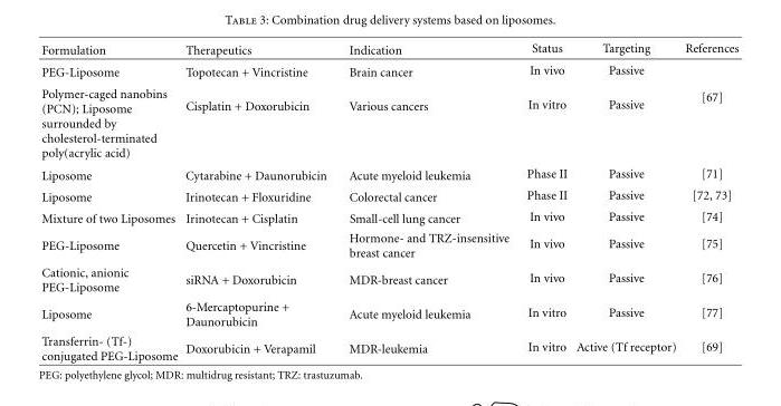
<table><thead><tr><td>Formulation</td><td>Therapeutics</td><td>Indication</td><td>Status</td><td>Targeting</td><td>References</td></tr></thead><tbody><tr><td>PEG-Liposome</td><td>Topotecan + Vincristine</td><td>Brain cancer</td><td>In vivo</td><td>Passive</td><td></td></tr><tr><td>Polymer-caged nanobins (PCN); Liposome surrounded by cholesterol-terminated poly(acrylic acid)</td><td>Cisplatin + Doxorubicin</td><td>Various cancers</td><td>In vitro</td><td>Passive</td><td>[67]</td></tr><tr><td>Liposome</td><td>Cytarabine + Daunorubicin</td><td>Acute myeloid leukemia</td><td>Phase II</td><td>Passive</td><td>[71]</td></tr><tr><td>Liposome</td><td>Irinotecan + Floxuridine</td><td>Colorectal cancer</td><td>Phase II</td><td>Passive</td><td>[72, 73]</td></tr><tr><td>Mixture of two Liposomes</td><td>Irinotecan + Cisplatin</td><td>Small-cell lung cancer</td><td>In vivo</td><td>Passive</td><td>[74]</td></tr><tr><td>PEG-Liposome</td><td>Quercetin + Vincristine</td><td>Hormone- and TRZ-insensitive breast cancer</td><td>In vivo</td><td>Passive</td><td>[75]</td></tr><tr><td>Cationic, anionic PEG-Liposome</td><td>siRNA + Doxorubicin</td><td>MDR-breast cancer</td><td>In vivo</td><td>Passive</td><td>[76]</td></tr><tr><td>Liposome</td><td>6-Mercaptopurine + Daunorubicin</td><td>Acute myeloid leukemia</td><td>In vitro</td><td>Passive</td><td>[77]</td></tr><tr><td>Transferrin- (Tf-) conjugated PEG-Liposome</td><td>Doxorubicin + Verapamil</td><td>MDR-leukemia</td><td>In vitro</td><td>Active (Tf receptor)</td><td>[69]</td></tr></tbody></table>